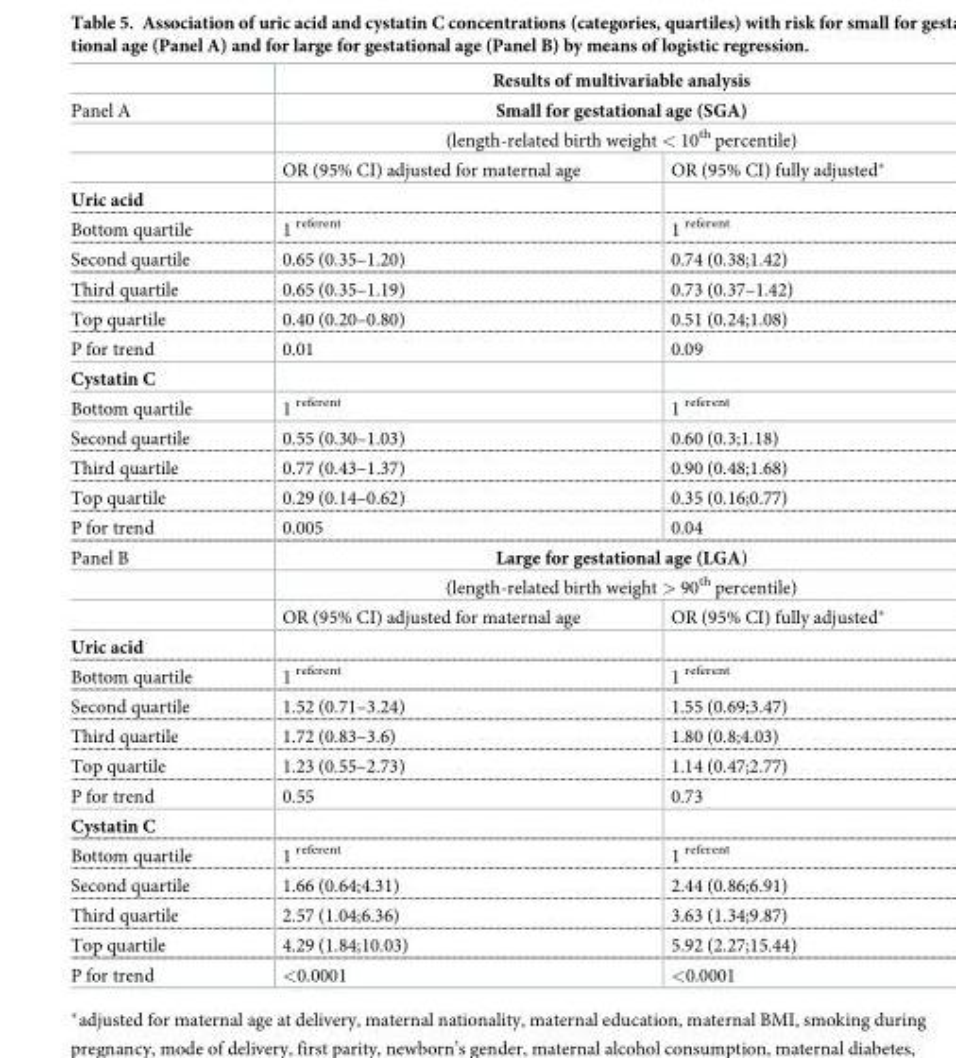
<table><thead><tr><td rowspan="4">Panel A</td><td rowspan="3" colspan="2">Results of multivariable analysis Small for gestational age (SGA) (length-related birth weight &lt; 10<sup>th</sup> percentile)</td></tr><tr></tr><tr></tr><tr><td>OR (95% CI) adjusted for maternal age</td><td>OR (95% CI) fully adjusted*</td></tr></thead><tbody><tr><td colspan="3">Uric acid</td></tr><tr><td>Bottom quartile</td><td>1 <sup>referent</sup></td><td>1 <sup>referent</sup></td></tr><tr><td>Second quartile</td><td>0.65 (0.35–1.20)</td><td>0.74 (0.38;1.42)</td></tr><tr><td>Third quartile</td><td>0.65 (0.35–1.19)</td><td>0.73 (0.37–1.42)</td></tr><tr><td>Top quartile</td><td>0.40 (0.20–0.80)</td><td>0.51 (0.24;1.08)</td></tr><tr><td>P for trend</td><td>0.01</td><td>0.09</td></tr><tr><td colspan="3">Cystatin C</td></tr><tr><td>Bottom quartile</td><td>1 <sup>referent</sup></td><td>1 <sup>referent</sup></td></tr><tr><td>Second quartile</td><td>0.55 (0.30–1.03)</td><td>0.60 (0.3;1.18)</td></tr><tr><td>Third quartile</td><td>0.77 (0.43–1.37)</td><td>0.90 (0.48;1.68)</td></tr><tr><td>Top quartile</td><td>0.29 (0.14–0.62)</td><td>0.35 (0.16;0.77)</td></tr><tr><td>P for trend</td><td>0.005</td><td>0.04</td></tr><tr><td rowspan="3">Panel B</td><td colspan="2">Large for gestational age (LGA)</td></tr><tr><td colspan="2">(length-related birth weight &gt; 90<sup>th</sup> percentile)</td></tr><tr><td>OR (95% CI) adjusted for maternal age</td><td>OR (95% CI) fully adjusted*</td></tr><tr><td colspan="3">Uric acid</td></tr><tr><td>Bottom quartile</td><td>1 <sup>referent</sup></td><td>1 <sup>referent</sup></td></tr><tr><td>Second quartile</td><td>1.52 (0.71–3.24)</td><td>1.55 (0.69;3.47)</td></tr><tr><td>Third quartile</td><td>1.72 (0.83–3.6)</td><td>1.80 (0.8;4.03)</td></tr><tr><td>Top quartile</td><td>1.23 (0.55–2.73)</td><td>1.14 (0.47;2.77)</td></tr><tr><td>P for trend</td><td>0.55</td><td>0.73</td></tr><tr><td colspan="3">Cystatin C</td></tr><tr><td>Bottom quartile</td><td>1 <sup>referent</sup></td><td>1 <sup>referent</sup></td></tr><tr><td>Second quartile</td><td>1.66 (0.64;4.31)</td><td>2.44 (0.86;6.91)</td></tr><tr><td>Third quartile</td><td>2.57 (1.04;6.36)</td><td>3.63 (1.34;9.87)</td></tr><tr><td>Top quartile</td><td>4.29 (1.84;10.03)</td><td>5.92 (2.27;15.44)</td></tr><tr><td>P for trend</td><td>&lt;0.0001</td><td>&lt;0.0001</td></tr></tbody></table>